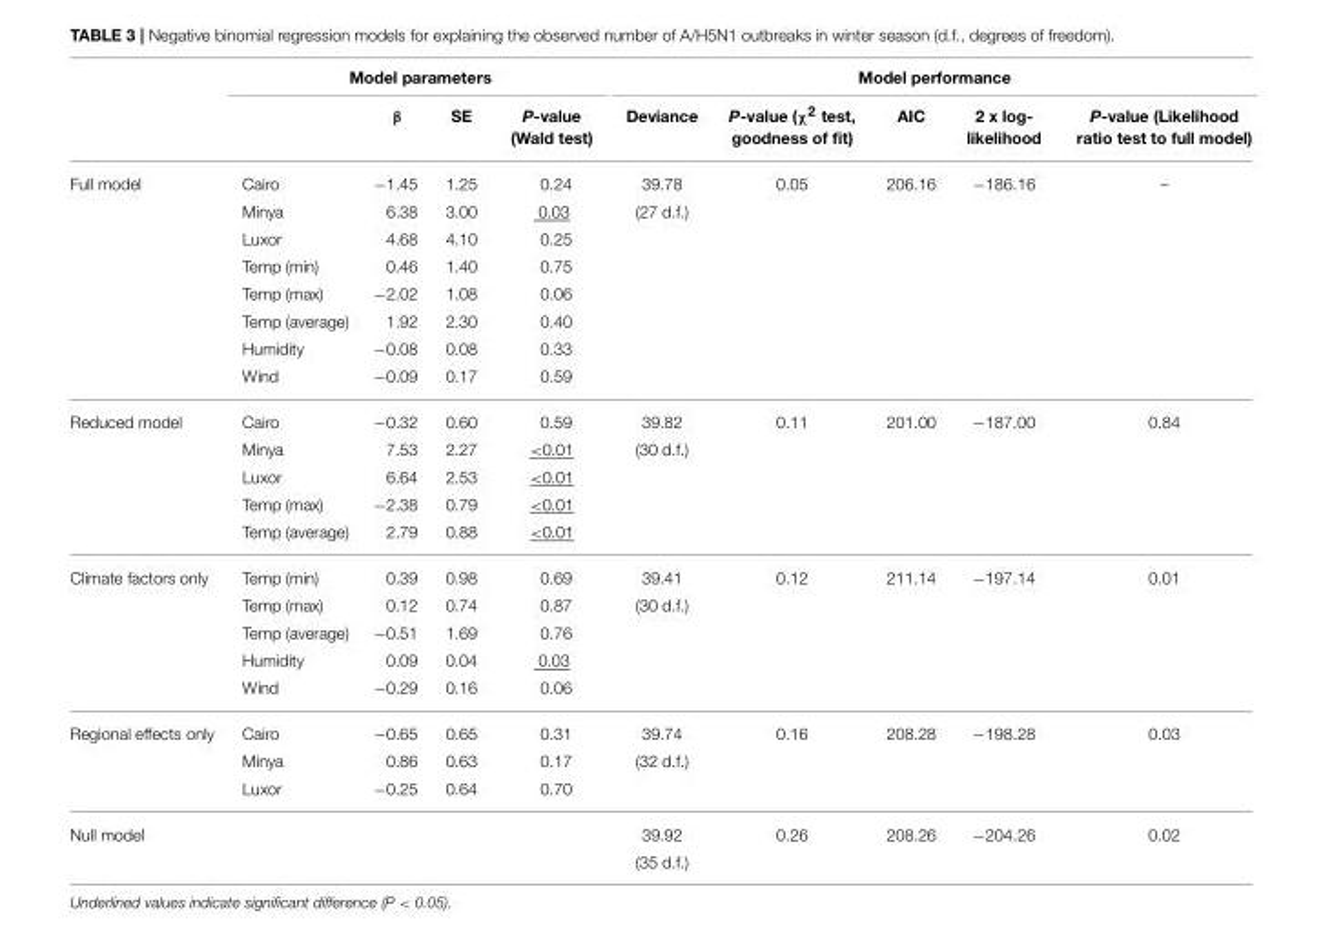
<table><thead><tr><td rowspan="2"></td><td colspan="4">Model parameters</td><td colspan="5">Model performance</td></tr><tr><td></td><td>β</td><td>SE</td><td>P-value (Wald test)</td><td>Deviance</td><td>P-value (χ<sup>2</sup> test, goodness of fit)</td><td>AIC</td><td>2 x log- likelihood</td><td>P-value (Likelihood ratio test to full model)</td></tr></thead><tbody><tr><td rowspan="8">Full model</td><td>Cairo</td><td>−1.45</td><td>1.25</td><td>0.24</td><td>39.78</td><td>0.05</td><td>206.16</td><td>−186.16</td><td>–</td></tr><tr><td>Minya</td><td>6.38</td><td>3.00</td><td>0.03</td><td>(27 d.f.)</td><td></td><td></td><td></td><td></td></tr><tr><td>Luxor</td><td>4.68</td><td>4.10</td><td>0.25</td><td></td><td></td><td></td><td></td><td></td></tr><tr><td>Temp (min)</td><td>0.46</td><td>1.40</td><td>0.75</td><td></td><td></td><td></td><td></td><td></td></tr><tr><td>Temp (max)</td><td>−2.02</td><td>1.08</td><td>0.06</td><td></td><td></td><td></td><td></td><td></td></tr><tr><td>Temp (average)</td><td>1.92</td><td>2.30</td><td>0.40</td><td></td><td></td><td></td><td></td><td></td></tr><tr><td>Humidity</td><td>−0.08</td><td>0.08</td><td>0.33</td><td></td><td></td><td></td><td></td><td></td></tr><tr><td>Wind</td><td>−0.09</td><td>0.17</td><td>0.59</td><td></td><td></td><td></td><td></td><td></td></tr><tr><td rowspan="5">Reduced model</td><td>Cairo</td><td>−0.32</td><td>0.60</td><td>0.59</td><td>39.82</td><td>0.11</td><td>201.00</td><td>−187.00</td><td>0.84</td></tr><tr><td>Minya</td><td>7.53</td><td>2.27</td><td>&lt;0.01</td><td>(30 d.f.)</td><td></td><td></td><td></td><td></td></tr><tr><td>Luxor</td><td>6.64</td><td>2.53</td><td>&lt;0.01</td><td></td><td></td><td></td><td></td><td></td></tr><tr><td>Temp (max)</td><td>−2.38</td><td>0.79</td><td>&lt;0.01</td><td></td><td></td><td></td><td></td><td></td></tr><tr><td>Temp (average)</td><td>2.79</td><td>0.88</td><td>&lt;0.01</td><td></td><td></td><td></td><td></td><td></td></tr><tr><td rowspan="5">Climate factors only</td><td>Temp (min)</td><td>0.39</td><td>0.98</td><td>0.69</td><td>39.41</td><td>0.12</td><td>211.14</td><td>−197.14</td><td>0.01</td></tr><tr><td>Temp (max)</td><td>0.12</td><td>0.74</td><td>0.87</td><td>(30 d.f.)</td><td></td><td></td><td></td><td></td></tr><tr><td>Temp (average)</td><td>−0.51</td><td>1.69</td><td>0.76</td><td></td><td></td><td></td><td></td><td></td></tr><tr><td>Humidity</td><td>0.09</td><td>0.04</td><td>0.03</td><td></td><td></td><td></td><td></td><td></td></tr><tr><td>Wind</td><td>−0.29</td><td>0.16</td><td>0.06</td><td></td><td></td><td></td><td></td><td></td></tr><tr><td rowspan="3">Regional effects only</td><td>Cairo</td><td>−0.65</td><td>0.65</td><td>0.31</td><td>39.74</td><td>0.16</td><td>208.28</td><td>−198.28</td><td>0.03</td></tr><tr><td>Minya</td><td>0.86</td><td>0.63</td><td>0.17</td><td>(32 d.f.)</td><td></td><td></td><td></td><td></td></tr><tr><td>Luxor</td><td>−0.25</td><td>0.64</td><td>0.70</td><td></td><td></td><td></td><td></td><td></td></tr><tr><td rowspan="2">Null model</td><td></td><td></td><td></td><td></td><td>39.92</td><td>0.26</td><td>208.26</td><td>−204.26</td><td>0.02</td></tr><tr><td></td><td></td><td></td><td></td><td>(35 d.f.)</td><td></td><td></td><td></td><td></td></tr></tbody></table>